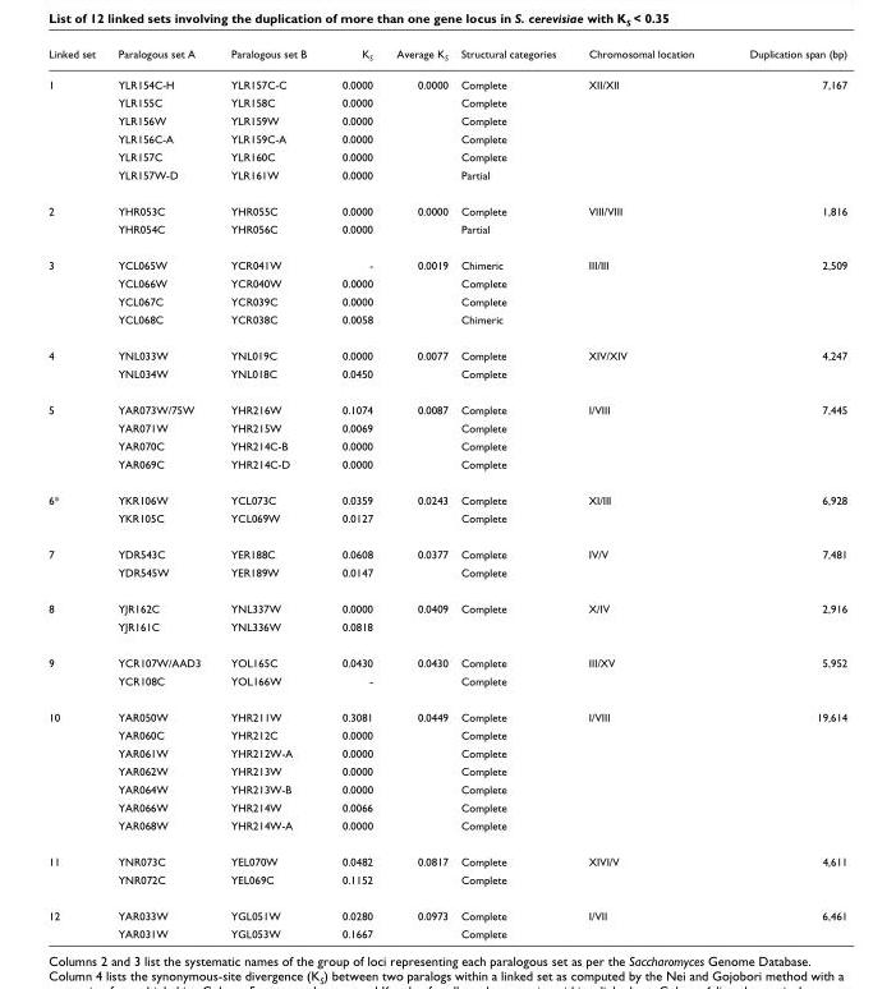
<table><thead><tr><td>Linked set</td><td>Paralogous set A</td><td>Paralogous set B</td><td>K<sub>S</sub></td><td>Average K<sub>S</sub></td><td>Structural categories</td><td>Chromosomal location</td><td>Duplication span (bp)</td></tr></thead><tbody><tr><td rowspan="6">1</td><td>YLR154C-H</td><td>YLR157C-C</td><td>0.0000</td><td>0.0000</td><td>Complete</td><td>XII/XII</td><td>7,167</td></tr><tr><td>YLR155C</td><td>YLR158C</td><td>0.0000</td><td></td><td>Complete</td><td></td><td></td></tr><tr><td>YLR156W</td><td>YLR159W</td><td>0.0000</td><td></td><td>Complete</td><td></td><td></td></tr><tr><td>YLR156C-A</td><td>YLR159C-A</td><td>0.0000</td><td></td><td>Complete</td><td></td><td></td></tr><tr><td>YLR157C</td><td>YLR160C</td><td>0.0000</td><td></td><td>Complete</td><td></td><td></td></tr><tr><td>YLR157W-D</td><td>YLR161W</td><td>0.0000</td><td></td><td>Partial</td><td></td><td></td></tr><tr><td rowspan="2">2</td><td>YHR053C</td><td>YHR055C</td><td>0.0000</td><td>0.0000</td><td>Complete</td><td>VIII/VIII</td><td>1,816</td></tr><tr><td>YHR054C</td><td>YHR056C</td><td>0.0000</td><td></td><td>Partial</td><td></td><td></td></tr><tr><td rowspan="4">3</td><td>YCL065W</td><td>YCR041W</td><td>-</td><td>0.0019</td><td>Chimeric</td><td>III/III</td><td>2,509</td></tr><tr><td>YCL066W</td><td>YCR040W</td><td>0.0000</td><td></td><td>Complete</td><td></td><td></td></tr><tr><td>YCL067C</td><td>YCR039C</td><td>0.0000</td><td></td><td>Complete</td><td></td><td></td></tr><tr><td>YCL068C</td><td>YCR038C</td><td>0.0058</td><td></td><td>Chimeric</td><td></td><td></td></tr><tr><td rowspan="2">4</td><td>YNL033W</td><td>YNL019C</td><td>0.0000</td><td>0.0077</td><td>Complete</td><td>XIV/XIV</td><td>4,247</td></tr><tr><td>YNL034W</td><td>YNL018C</td><td>0.0450</td><td></td><td>Complete</td><td></td><td></td></tr><tr><td rowspan="4">5</td><td>YAR073W/75W</td><td>YHR216W</td><td>0.1074</td><td>0.0087</td><td>Complete</td><td>I/VIII</td><td>7,445</td></tr><tr><td>YAR071W</td><td>YHR215W</td><td>0.0069</td><td></td><td>Complete</td><td></td><td></td></tr><tr><td>YAR070C</td><td>YHR214C-B</td><td>0.0000</td><td></td><td>Complete</td><td></td><td></td></tr><tr><td>YAR069C</td><td>YHR214C-D</td><td>0.0000</td><td></td><td>Complete</td><td></td><td></td></tr><tr><td rowspan="2">6*</td><td>YKR106W</td><td>YCL073C</td><td>0.0359</td><td>0.0243</td><td>Complete</td><td>XI/III</td><td>6,928</td></tr><tr><td>YKR105C</td><td>YCL069W</td><td>0.0127</td><td></td><td>Complete</td><td></td><td></td></tr><tr><td rowspan="2">7</td><td>YDR543C</td><td>YER188C</td><td>0.0608</td><td>0.0377</td><td>Complete</td><td>IV/V</td><td>7,481</td></tr><tr><td>YDR545W</td><td>YER189W</td><td>0.0147</td><td></td><td>Complete</td><td></td><td></td></tr><tr><td rowspan="2">8</td><td>YJR162C</td><td>YNL337W</td><td>0.0000</td><td>0.0409</td><td>Complete</td><td>X/IV</td><td>2,916</td></tr><tr><td>YJR161C</td><td>YNL336W</td><td>0.0818</td><td></td><td></td><td></td><td></td></tr><tr><td rowspan="2">9</td><td>YCR107W/AAD3</td><td>YOL165C</td><td>0.0430</td><td>0.0430</td><td>Complete</td><td>III/XV</td><td>5,952</td></tr><tr><td>YCR108C</td><td>YOL166W</td><td>-</td><td></td><td>Complete</td><td></td><td></td></tr><tr><td rowspan="7">10</td><td>YAR050W</td><td>YHR211W</td><td>0.3081</td><td>0.0449</td><td>Complete</td><td>I/VIII</td><td>19,614</td></tr><tr><td>YAR060C</td><td>YHR212C</td><td>0.0000</td><td></td><td>Complete</td><td></td><td></td></tr><tr><td>YAR061W</td><td>YHR212W-A</td><td>0.0000</td><td></td><td>Complete</td><td></td><td></td></tr><tr><td>YAR062W</td><td>YHR213W</td><td>0.0000</td><td></td><td>Complete</td><td></td><td></td></tr><tr><td>YAR064W</td><td>YHR213W-B</td><td>0.0000</td><td></td><td>Complete</td><td></td><td></td></tr><tr><td>YAR066W</td><td>YHR214W</td><td>0.0066</td><td></td><td>Complete</td><td></td><td></td></tr><tr><td>YAR068W</td><td>YHR214W-A</td><td>0.0000</td><td></td><td>Complete</td><td></td><td></td></tr><tr><td rowspan="2">11</td><td>YNR073C</td><td>YEL070W</td><td>0.0482</td><td>0.0817</td><td>Complete</td><td>XIVI/V</td><td>4,611</td></tr><tr><td>YNR072C</td><td>YEL069C</td><td>0.1152</td><td></td><td>Complete</td><td></td><td></td></tr><tr><td rowspan="2">12</td><td>YAR033W</td><td>YGL051W</td><td>0.0280</td><td>0.0973</td><td>Complete</td><td>I/VII</td><td>6,461</td></tr><tr><td>YAR031W</td><td>YGL053W</td><td>0.1667</td><td></td><td>Complete</td><td></td><td></td></tr></tbody></table>